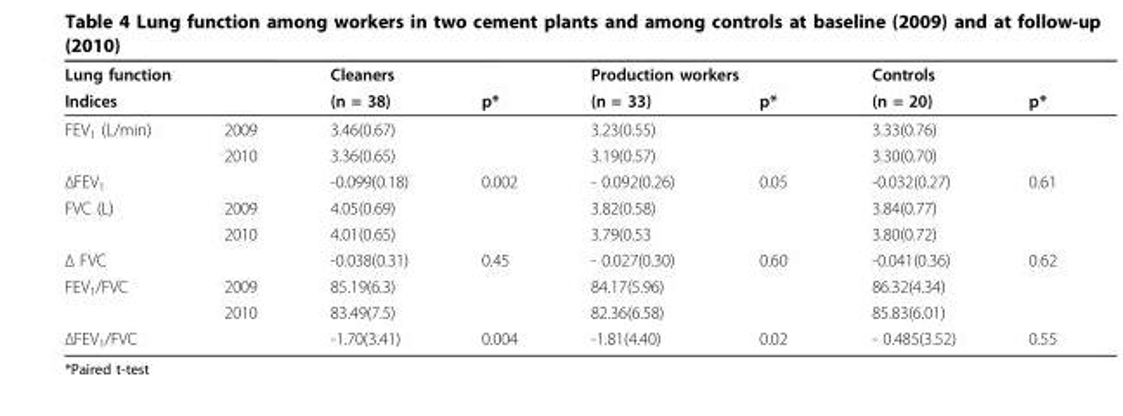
<table><thead><tr><td colspan="2">Lung function</td><td rowspan="2">Cleaners (n = 38)</td><td rowspan="2">p*</td><td colspan="2">Production workers</td><td rowspan="2">Controls (n = 20)</td><td rowspan="2">p*</td></tr><tr><td>Indices</td><td></td><td>(n = 33)</td><td>p*</td></tr></thead><tbody><tr><td rowspan="2">FEV<sub>1</sub> (L/min)</td><td>2009</td><td>3.46(0.67)</td><td></td><td>3.23(0.55)</td><td></td><td>3.33(0.76)</td><td></td></tr><tr><td>2010</td><td>3.36(0.65)</td><td></td><td>3.19(0.57)</td><td></td><td>3.30(0.70)</td><td></td></tr><tr><td>ΔFEV<sub>1</sub></td><td></td><td>-0.099(0.18)</td><td>0.002</td><td>- 0.092(0.26)</td><td>0.05</td><td>-0.032(0.27)</td><td>0.61</td></tr><tr><td rowspan="2">FVC (L)</td><td>2009</td><td>4.05(0.69)</td><td></td><td>3.82(0.58)</td><td></td><td>3.84(0.77)</td><td></td></tr><tr><td>2010</td><td>4.01(0.65)</td><td></td><td>3.79(0.53</td><td></td><td>3.80(0.72)</td><td></td></tr><tr><td>Δ FVC</td><td></td><td>-0.038(0.31)</td><td>0.45</td><td>- 0.027(0.30)</td><td>0.60</td><td>-0.041(0.36)</td><td>0.62</td></tr><tr><td rowspan="2">FEV<sub>1</sub>/FVC</td><td>2009</td><td>85.19(6.3)</td><td></td><td>84.17(5.96)</td><td></td><td>86.32(4.34)</td><td></td></tr><tr><td>2010</td><td>83.49(7.5)</td><td></td><td>82.36(6.58)</td><td></td><td>85.83(6.01)</td><td></td></tr><tr><td>ΔFEV<sub>1</sub>/FVC</td><td></td><td>-1.70(3.41)</td><td>0.004</td><td>-1.81(4.40)</td><td>0.02</td><td>- 0.485(3.52)</td><td>0.55</td></tr></tbody></table>